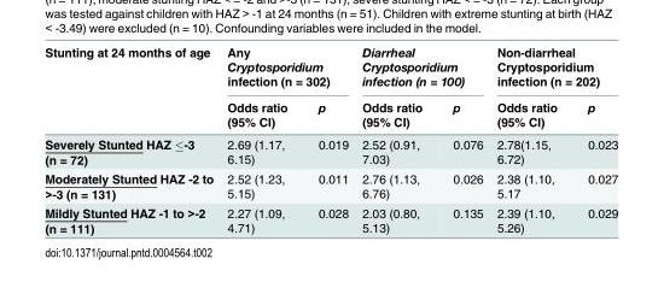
<table><thead><tr><td rowspan="2">Stunting at 24 months of age</td><td colspan="2">Any Cryptosporidium infection (n = 302)</td><td colspan="2">Diarrheal Cryptosporidium infection (n = 100)</td><td colspan="2">Non-diarrheal Cryptosporidium infection (n = 202)</td></tr><tr><td>Odds ratio (95% CI)</td><td>p</td><td>Odds ratio (95% CI)</td><td>p</td><td>Odds ratio (95% CI)</td><td>p</td></tr></thead><tbody><tr><td>Severely Stunted HAZ ≤-3 (n = 72)</td><td>2.69 (1.17, 6.15)</td><td>0.019</td><td>2.52 (0.91, 7.03)</td><td>0.076</td><td>2.78(1.15, 6.72)</td><td>0.023</td></tr><tr><td>Moderately Stunted HAZ -2 to &gt;-3 (n = 131)</td><td>2.52 (1.23, 5.15)</td><td>0.011</td><td>2.76 (1.13, 6.76)</td><td>0.026</td><td>2.38 (1.10, 5.17</td><td>0.027</td></tr><tr><td>Mildly Stunted HAZ -1 to &gt;-2 (n = 111)</td><td>2.27 (1.09, 4.71)</td><td>0.028</td><td>2.03 (0.80, 5.13)</td><td>0.135</td><td>2.39 (1.10, 5.26)</td><td>0.029</td></tr></tbody></table>